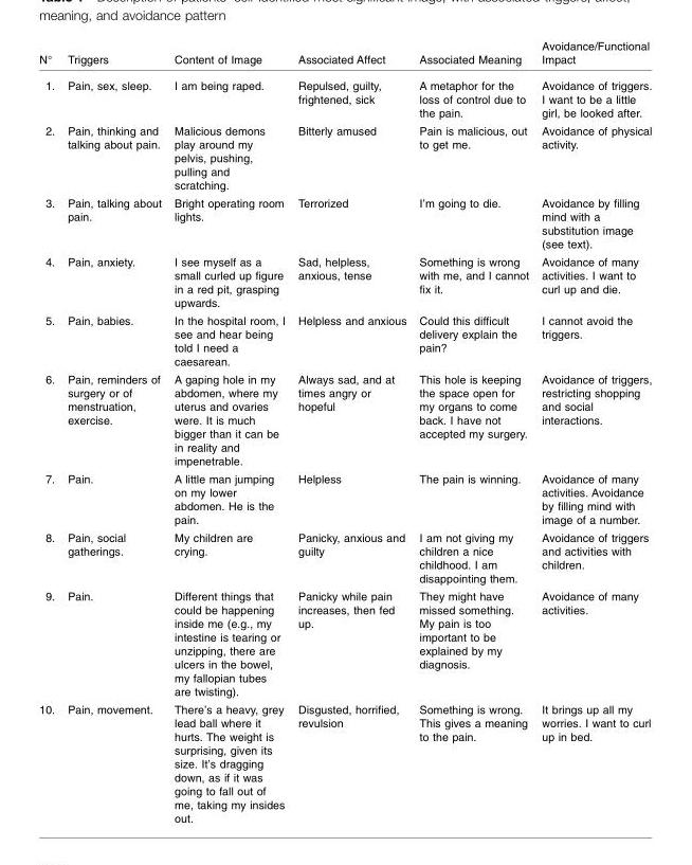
<table><thead><tr><td>N°</td><td>Triggers</td><td>Content of Image</td><td>Associated Affect</td><td>Associated Meaning</td><td>Avoidance/Functional Impact</td></tr></thead><tbody><tr><td>1.</td><td>Pain, sex, sleep.</td><td>I am being raped.</td><td>Repulsed, guilty, frightened, sick</td><td>A metaphor for the loss of control due to the pain.</td><td>Avoidance of triggers. I want to be a little girl, be looked after.</td></tr><tr><td>2.</td><td>Pain, thinking and talking about pain.</td><td>Malicious demons play around my pelvis, pushing, pulling and scratching.</td><td>Bitterly amused</td><td>Pain is malicious, out to get me.</td><td>Avoidance of physical activity.</td></tr><tr><td>3.</td><td>Pain, talking about pain.</td><td>Bright operating room lights.</td><td>Terrorized</td><td>I’m going to die.</td><td>Avoidance by filling mind with a substitution image (see text).</td></tr><tr><td>4.</td><td>Pain, anxiety.</td><td>I see myself as a small curled up figure in a red pit, grasping upwards.</td><td>Sad, helpless, anxious, tense</td><td>Something is wrong with me, and I cannot fix it.</td><td>Avoidance of many activities. I want to curl up and die.</td></tr><tr><td>5.</td><td>Pain, babies.</td><td>In the hospital room, I see and hear being told I need a caesarean.</td><td>Helpless and anxious</td><td>Could this difficult delivery explain the pain?</td><td>I cannot avoid the triggers.</td></tr><tr><td>6.</td><td>Pain, reminders of surgery or of menstruation, exercise.</td><td>A gaping hole in my abdomen, where my uterus and ovaries were. It is much bigger than it can be in reality and impenetrable.</td><td>Always sad, and at times angry or hopeful</td><td>This hole is keeping the space open for my organs to come back. I have not accepted my surgery.</td><td>Avoidance of triggers, restricting shopping and social interactions.</td></tr><tr><td>7.</td><td>Pain.</td><td>A little man jumping on my lower abdomen. He is the pain.</td><td>Helpless</td><td>The pain is winning.</td><td>Avoidance of many activities. Avoidance by filling mind with image of a number.</td></tr><tr><td>8.</td><td>Pain, social gatherings.</td><td>My children are crying.</td><td>Panicky, anxious and guilty</td><td>I am not giving my children a nice childhood. I am disappointing them.</td><td>Avoidance of triggers and activities with children.</td></tr><tr><td>9.</td><td>Pain.</td><td>Different things that could be happening inside me (e.g., my intestine is tearing or unzipping, there are ulcers in the bowel, my fallopian tubes are twisting).</td><td>Panicky while pain increases, then fed up.</td><td>They might have missed something. My pain is too important to be explained by my diagnosis.</td><td>Avoidance of many activities.</td></tr><tr><td>10.</td><td>Pain, movement.</td><td>There’s a heavy, grey lead ball where it hurts. The weight is surprising, given its size. It’s dragging down, as if it was going to fall out of me, taking my insides out.</td><td>Disgusted, horrified, revulsion</td><td>Something is wrong. This gives a meaning to the pain.</td><td>It brings up all my worries. I want to curl up in bed.</td></tr></tbody></table>